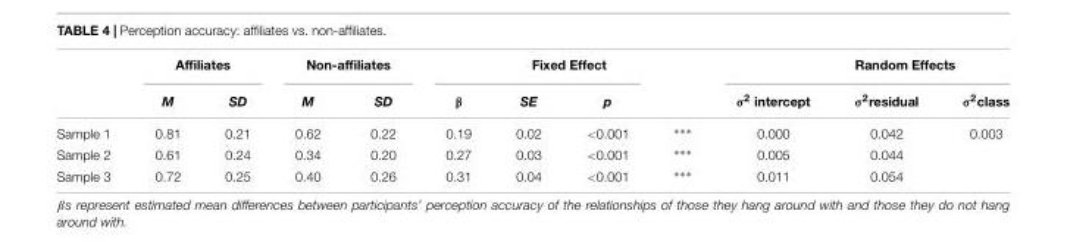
<table><thead><tr><td rowspan="2"></td><td colspan="2">Affiliates</td><td colspan="2">Non-affiliates</td><td colspan="3">Fixed Effect</td><td rowspan="2"></td><td colspan="3">Random Effects</td></tr><tr><td>M</td><td>SD</td><td>M</td><td>SD</td><td>β</td><td>SE</td><td>p</td><td>σ<sup>2</sup> intercept</td><td>σ<sup>2</sup>residual</td><td>σ<sup>2</sup>class</td></tr></thead><tbody><tr><td>Sample 1</td><td>0.81</td><td>0.21</td><td>0.62</td><td>0.22</td><td>0.19</td><td>0.02</td><td>&lt;0.001</td><td>∗∗∗</td><td>0.000</td><td>0.042</td><td>0.003</td></tr><tr><td>Sample 2</td><td>0.61</td><td>0.24</td><td>0.34</td><td>0.20</td><td>0.27</td><td>0.03</td><td>&lt;0.001</td><td>∗∗∗</td><td>0.005</td><td>0.044</td><td></td></tr><tr><td>Sample 3</td><td>0.72</td><td>0.25</td><td>0.40</td><td>0.26</td><td>0.31</td><td>0.04</td><td>&lt;0.001</td><td>∗∗∗</td><td>0.011</td><td>0.054</td><td></td></tr></tbody></table>